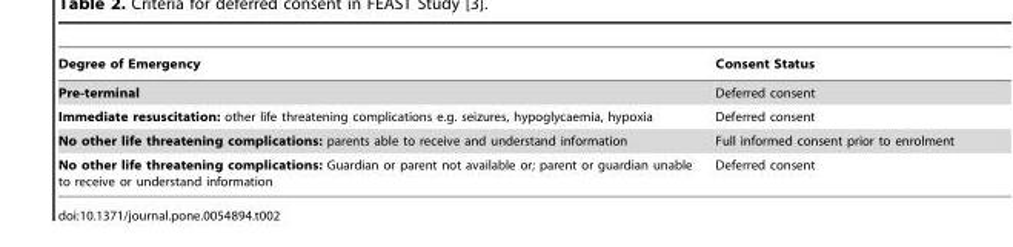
<table><thead><tr><td>Degree of Emergency</td><td>Consent Status</td></tr></thead><tbody><tr><td>Pre-terminal</td><td>Deferred consent</td></tr><tr><td>Immediate resuscitation: other life threatening complications e.g. seizures, hypoglycaemia, hypoxia</td><td>Deferred consent</td></tr><tr><td>No other life threatening complications: parents able to receive and understand information</td><td>Full informed consent prior to enrolment</td></tr><tr><td>No other life threatening complications: Guardian or parent not available or; parent or guardian unable to receive or understand information</td><td>Deferred consent</td></tr></tbody></table>